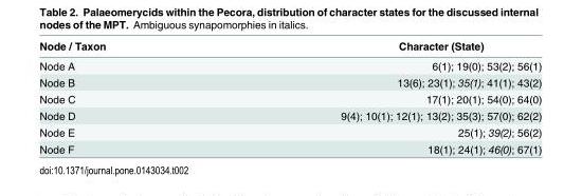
<table><thead><tr><td>Node / Taxon</td><td>Character (State)</td></tr></thead><tbody><tr><td>Node A</td><td>6(1); 19(0); 53(2); 56(1)</td></tr><tr><td>Node B</td><td>13(6); 23(1); 35(1); 41(1); 43(2)</td></tr><tr><td>Node C</td><td>17(1); 20(1); 54(0); 64(0)</td></tr><tr><td>Node D</td><td>9(4); 10(1); 12(1); 13(2); 35(3); 57(0); 62(2)</td></tr><tr><td>Node E</td><td>25(1); 39(2); 56(2)</td></tr><tr><td>Node F</td><td>18(1); 24(1); 46(0); 67(1)</td></tr></tbody></table>